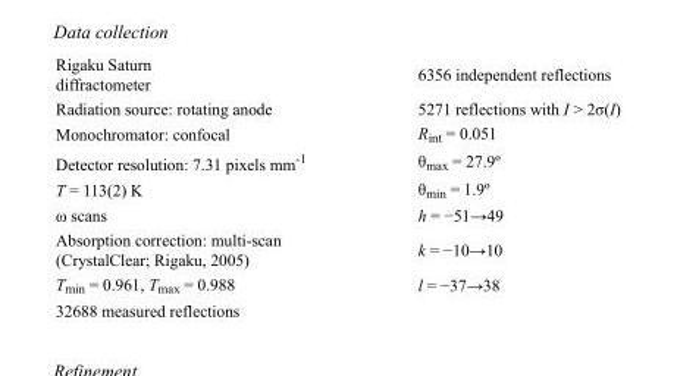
<table><tbody><tr><td>Rigaku Saturn diffractometer</td><td>6356 independent reflections</td></tr><tr><td>Radiation source: rotating anode</td><td>5271 reflections with I &gt; 2σ(I)</td></tr><tr><td>Monochromator: confocal</td><td>R<sub>int</sub> = 0.051</td></tr><tr><td>Detector resolution: 7.31 pixels mm<sup>-1</sup></td><td>θ<sub>max</sub> = 27.9º</td></tr><tr><td>T = 113(2) K</td><td>θ<sub>min</sub> = 1.9º</td></tr><tr><td>ω scans</td><td>h = −51→49</td></tr><tr><td>Absorption correction: multi-scan (CrystalClear; Rigaku, 2005)</td><td>k = −10→10</td></tr><tr><td>T<sub>min</sub> = 0.961, T<sub>max</sub> = 0.988</td><td>l = −37→38</td></tr><tr><td>32688 measured reflections</td><td></td></tr></tbody></table>